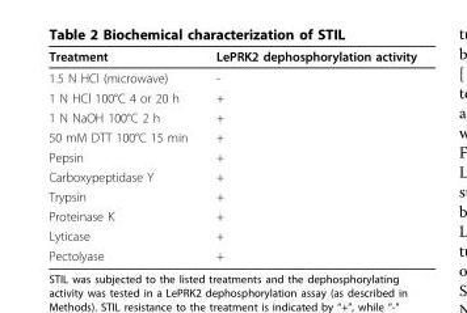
<table><thead><tr><td>Treatment</td><td>LePRK2 dephosphorylation activity</td></tr></thead><tbody><tr><td>1.5 N HCl (microwave)</td><td>-</td></tr><tr><td>1 N HCl 100°C 4 or 20 h</td><td>+</td></tr><tr><td>1 N NaOH 100°C 2 h</td><td>+</td></tr><tr><td>50 mM DTT 100°C 15 min</td><td>+</td></tr><tr><td>Pepsin</td><td>+</td></tr><tr><td>Carboxypeptidase Y</td><td>+</td></tr><tr><td>Trypsin</td><td>+</td></tr><tr><td>Proteinase K</td><td>+</td></tr><tr><td>Lyticase</td><td>+</td></tr><tr><td>Pectolyase</td><td>+</td></tr></tbody></table>